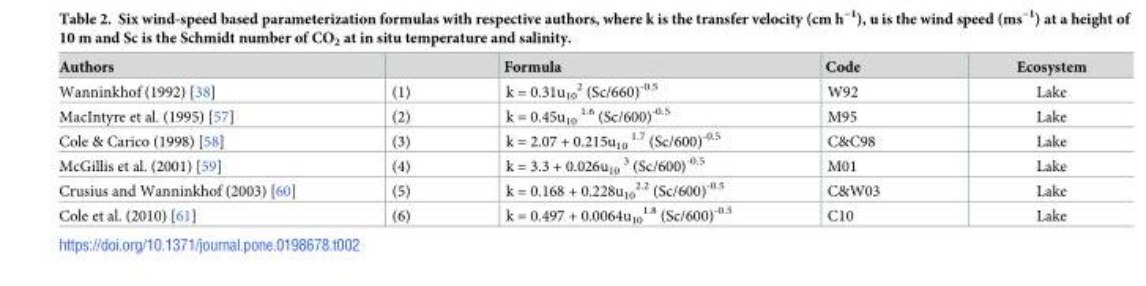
<table><thead><tr><td>Authors</td><td></td><td>Formula</td><td>Code</td><td>Ecosystem</td></tr></thead><tbody><tr><td>Wanninkhof (1992) [38]</td><td>(1)</td><td>k = 0.31u<sub>10</sub> <sup>2</sup> (Sc/660)<sup>-0.5</sup></td><td>W92</td><td>Lake</td></tr><tr><td>MacIntyre et al. (1995) [57]</td><td>(2)</td><td>k = 0.45u<sub>10</sub> <sup>1.6</sup> (Sc/600)<sup>-0.5</sup></td><td>M95</td><td>Lake</td></tr><tr><td>Cole &amp; Carico (1998) [58]</td><td>(3)</td><td>k = 2.07 + 0.215u<sub>10</sub> <sup>1.7</sup> (Sc/600)<sup>-0.5</sup></td><td>C&amp;C98</td><td>Lake</td></tr><tr><td>McGillis et al. (2001) [59]</td><td>(4)</td><td>k = 3.3 + 0.026u<sub>10</sub> <sup>3</sup> (Sc/600)<sup>-0.5</sup></td><td>M01</td><td>Lake</td></tr><tr><td>Crusius and Wanninkhof (2003) [60]</td><td>(5)</td><td>k = 0.168 + 0.228u<sub>10</sub> <sup>2.2</sup> (Sc/600)<sup>-0.5</sup></td><td>C&amp;W03</td><td>Lake</td></tr><tr><td>Cole et al. (2010) [61]</td><td>(6)</td><td>k = 0.497 + 0.0064u<sub>10</sub> <sup>1.8</sup> (Sc/600)<sup>-0.5</sup></td><td>C10</td><td>Lake</td></tr></tbody></table>